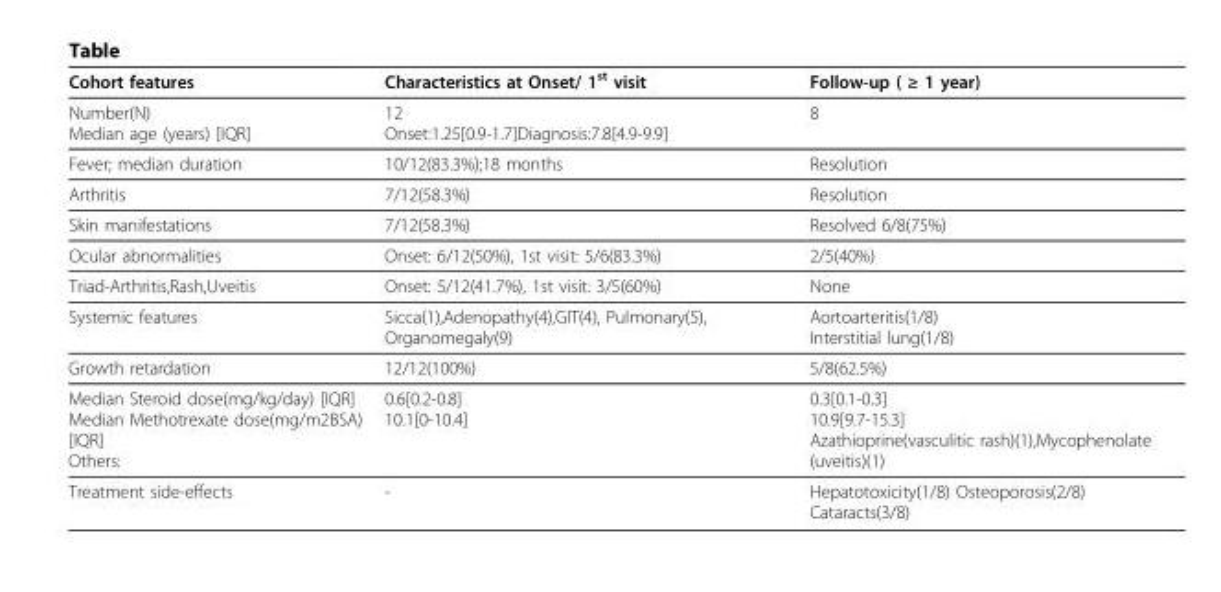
<table><thead><tr><td>Cohort features</td><td>Characteristics at Onset/ 1<sup>st</sup> visit</td><td>Follow-up ( ≥ 1 year)</td></tr></thead><tbody><tr><td>Number(N) Median age (years) [IQR]</td><td>12 Onset:1.25[0.9-1.7]Diagnosis:7.8[4.9-9.9]</td><td>8</td></tr><tr><td>Fever; median duration</td><td>10/12(83.3%);18 months</td><td>Resolution</td></tr><tr><td>Arthritis</td><td>7/12(58.3%)</td><td>Resolution</td></tr><tr><td>Skin manifestations</td><td>7/12(58.3%)</td><td>Resolved 6/8(75%)</td></tr><tr><td>Ocular abnormalities</td><td>Onset: 6/12(50%), 1st visit: 5/6(83.3%)</td><td>2/5(40%)</td></tr><tr><td>Triad-Arthritis,Rash,Uveitis</td><td>Onset: 5/12(41.7%), 1st visit: 3/5(60%)</td><td>None</td></tr><tr><td>Systemic features</td><td>Sicca(1),Adenopathy(4),GIT(4), Pulmonary(5), Organomegaly(9)</td><td>Aortoarteritis(1/8) Interstitial lung(1/8)</td></tr><tr><td>Growth retardation</td><td>12/12(100%)</td><td>5/8(62.5%)</td></tr><tr><td>Median Steroid dose(mg/kg/day) [IQR] Median Methotrexate dose(mg/m2BSA) [IQR] Others:</td><td>0.6[0.2-0.8] 10.1[0-10.4]</td><td>0.3[0.1-0.3] 10.9[9.7-15.3] Azathioprine(vasculitic rash)(1),Mycophenolate (uveitis)(1)</td></tr><tr><td>Treatment side-effects</td><td>-</td><td>Hepatotoxicity(1/8) Osteoporosis(2/8) Cataracts(3/8)</td></tr></tbody></table>